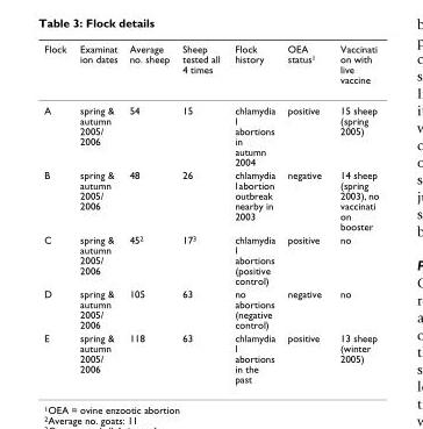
<table><thead><tr><td>Flock</td><td>Examinat ion dates</td><td>Average no. sheep</td><td>Sheep tested all 4 times</td><td>Flock history</td><td>OEA status<sup>1</sup></td><td>Vaccinati on with live vaccine</td></tr></thead><tbody><tr><td>A</td><td>spring &amp; autumn 2005/ 2006</td><td>54</td><td>15</td><td>chlamydia l abortions in autumn 2004</td><td>positive</td><td>15 sheep (spring 2005)</td></tr><tr><td>B</td><td>spring &amp; autumn 2005/ 2006</td><td>48</td><td>26</td><td>chlamydia l abortion outbreak nearby in 2003</td><td>negative</td><td>14 sheep (spring 2003), no vaccinati on booster</td></tr><tr><td>C</td><td>spring &amp; autumn 2005/ 2006</td><td>45<sup>2</sup></td><td>17<sup>3</sup></td><td>chlamydia l abortions (positive control)</td><td>positive</td><td>no</td></tr><tr><td>D</td><td>spring &amp; autumn 2005/ 2006</td><td>105</td><td>63</td><td>no abortions (negative control)</td><td>negative</td><td>no</td></tr><tr><td>E</td><td>spring &amp; autumn 2005/ 2006</td><td>118</td><td>63</td><td>chlamydia l abortions in the past</td><td>positive</td><td>13 sheep (winter 2005)</td></tr></tbody></table>